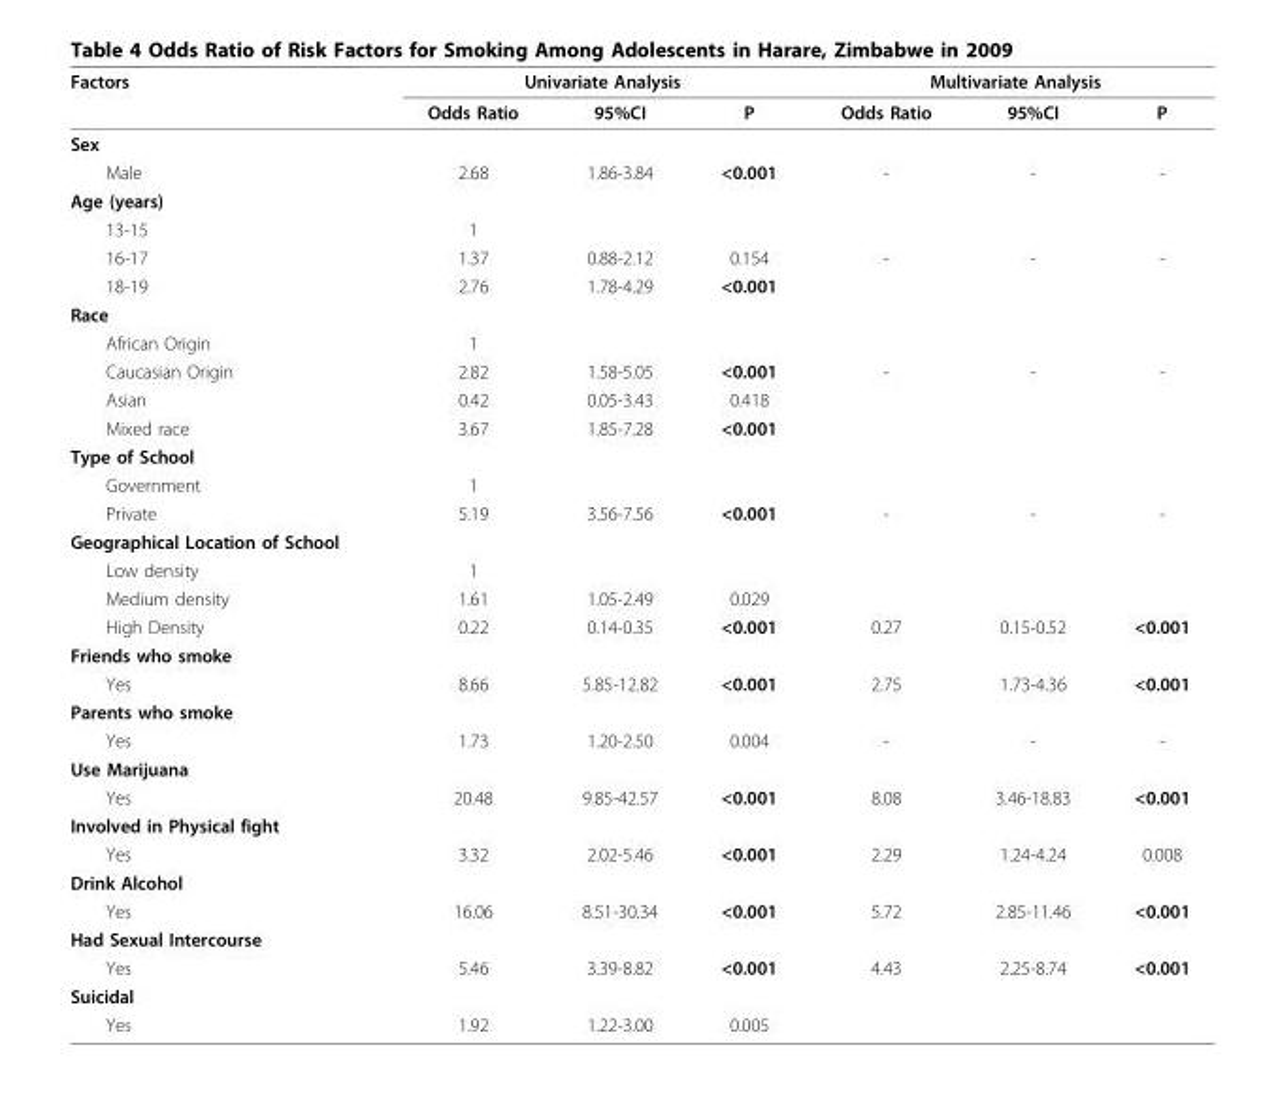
<table><thead><tr><td rowspan="2">Factors</td><td colspan="3">Univariate Analysis</td><td colspan="3">Multivariate Analysis</td></tr><tr><td>Odds Ratio</td><td>95%CI</td><td>P</td><td>Odds Ratio</td><td>95%CI</td><td>P</td></tr></thead><tbody><tr><td colspan="7">Sex</td></tr><tr><td>Male</td><td>2.68</td><td>1.86-3.84</td><td>&lt;0.001</td><td>-</td><td>-</td><td>-</td></tr><tr><td colspan="7">Age (years)</td></tr><tr><td>13-15</td><td>1</td><td></td><td></td><td></td><td></td><td></td></tr><tr><td>16-17</td><td>1.37</td><td>0.88-2.12</td><td>0.154</td><td>-</td><td>-</td><td>-</td></tr><tr><td>18-19</td><td>2.76</td><td>1.78-4.29</td><td>&lt;0.001</td><td></td><td></td><td></td></tr><tr><td colspan="7">Race</td></tr><tr><td>African Origin</td><td>1</td><td></td><td></td><td></td><td></td><td></td></tr><tr><td>Caucasian Origin</td><td>2.82</td><td>1.58-5.05</td><td>&lt;0.001</td><td>-</td><td>-</td><td>-</td></tr><tr><td>Asian</td><td>0.42</td><td>0.05-3.43</td><td>0.418</td><td></td><td></td><td></td></tr><tr><td>Mixed race</td><td>3.67</td><td>1.85-7.28</td><td>&lt;0.001</td><td></td><td></td><td></td></tr><tr><td colspan="7">Type of School</td></tr><tr><td>Government</td><td>1</td><td></td><td></td><td></td><td></td><td></td></tr><tr><td>Private</td><td>5.19</td><td>3.56-7.56</td><td>&lt;0.001</td><td>-</td><td>-</td><td>-</td></tr><tr><td colspan="7">Geographical Location of School</td></tr><tr><td>Low density</td><td>1</td><td></td><td></td><td></td><td></td><td></td></tr><tr><td>Medium density</td><td>1.61</td><td>1.05-2.49</td><td>0.029</td><td></td><td></td><td></td></tr><tr><td>High Density</td><td>0.22</td><td>0.14-0.35</td><td>&lt;0.001</td><td>0.27</td><td>0.15-0.52</td><td>&lt;0.001</td></tr><tr><td colspan="7">Friends who smoke</td></tr><tr><td>Yes</td><td>8.66</td><td>5.85-12.82</td><td>&lt;0.001</td><td>2.75</td><td>1.73-4.36</td><td>&lt;0.001</td></tr><tr><td colspan="7">Parents who smoke</td></tr><tr><td>Yes</td><td>1.73</td><td>1.20-2.50</td><td>0.004</td><td>-</td><td>-</td><td>-</td></tr><tr><td colspan="7">Use Marijuana</td></tr><tr><td>Yes</td><td>20.48</td><td>9.85-42.57</td><td>&lt;0.001</td><td>8.08</td><td>3.46-18.83</td><td>&lt;0.001</td></tr><tr><td colspan="7">Involved in Physical fight</td></tr><tr><td>Yes</td><td>3.32</td><td>2.02-5.46</td><td>&lt;0.001</td><td>2.29</td><td>1.24-4.24</td><td>0.008</td></tr><tr><td colspan="7">Drink Alcohol</td></tr><tr><td>Yes</td><td>16.06</td><td>8.51-30.34</td><td>&lt;0.001</td><td>5.72</td><td>2.85-11.46</td><td>&lt;0.001</td></tr><tr><td colspan="7">Had Sexual Intercourse</td></tr><tr><td>Yes</td><td>5.46</td><td>3.39-8.82</td><td>&lt;0.001</td><td>4.43</td><td>2.25-8.74</td><td>&lt;0.001</td></tr><tr><td colspan="7">Suicidal</td></tr><tr><td>Yes</td><td>1.92</td><td>1.22-3.00</td><td>0.005</td><td></td><td></td><td></td></tr></tbody></table>